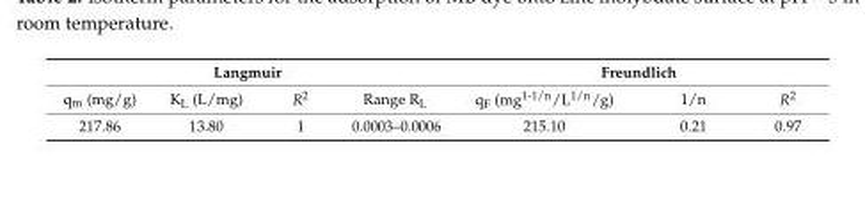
<table><thead><tr><td colspan="4">Langmuir</td><td colspan="3">Freundlich</td></tr><tr><td>q<sub>m</sub> (mg/g)</td><td>K<sub>L</sub> (L/mg)</td><td>R<sup>2</sup></td><td>Range R<sub>L</sub></td><td>q<sub>F</sub> (mg<sup>1-1/n</sup>/L<sup>1/n</sup>/g)</td><td>1/n</td><td>R<sup>2</sup></td></tr></thead><tbody><tr><td>217.86</td><td>13.80</td><td>1</td><td>0.0003–0.0006</td><td>215.10</td><td>0.21</td><td>0.97</td></tr></tbody></table>